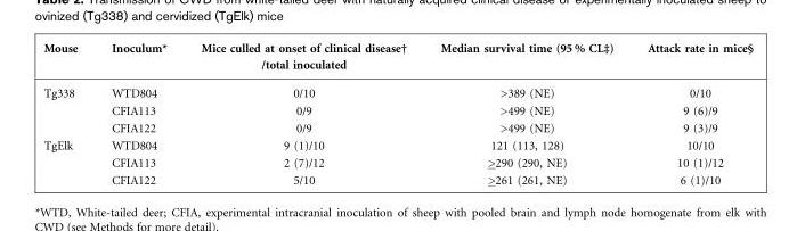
<table><thead><tr><td>Mouse</td><td>Inoculum*</td><td>Mice culled at onset of clinical disease† /total inoculated</td><td>Median survival time (95 % CL‡)</td><td>Attack rate in mice§</td></tr></thead><tbody><tr><td rowspan="3">Tg338</td><td>WTD804</td><td>0/10</td><td>&gt;389 (NE)</td><td>0/10</td></tr><tr><td>CFIA113</td><td>0/9</td><td>&gt;499 (NE)</td><td>9 (6)/9</td></tr><tr><td>CFIA122</td><td>0/9</td><td>&gt;499 (NE)</td><td>9 (3)/9</td></tr><tr><td rowspan="3">TgElk</td><td>WTD804</td><td>9 (1)/10</td><td>121 (113, 128)</td><td>10/10</td></tr><tr><td>CFIA113</td><td>2 (7)/12</td><td>&gt;290 (290, NE)</td><td>10 (1)/12</td></tr><tr><td>CFIA122</td><td>5/10</td><td>&gt;261 (261, NE)</td><td>6 (1)/10</td></tr></tbody></table>